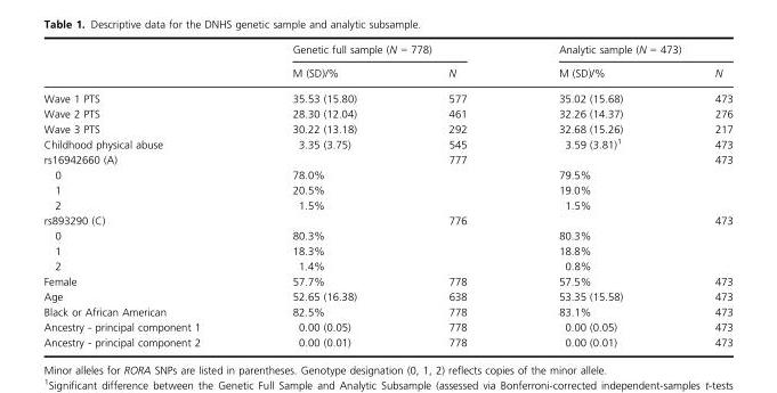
<table><thead><tr><td rowspan="2"></td><td colspan="2">Genetic full sample (N = 778)</td><td colspan="2">Analytic sample (N = 473)</td></tr><tr><td>M (SD)/%</td><td>N</td><td>M (SD)/%</td><td>N</td></tr></thead><tbody><tr><td>Wave 1 PTS</td><td>35.53 (15.80)</td><td>577</td><td>35.02 (15.68)</td><td>473</td></tr><tr><td>Wave 2 PTS</td><td>28.30 (12.04)</td><td>461</td><td>32.26 (14.37)</td><td>276</td></tr><tr><td>Wave 3 PTS</td><td>30.22 (13.18)</td><td>292</td><td>32.68 (15.26)</td><td>217</td></tr><tr><td>Childhood physical abuse</td><td>3.35 (3.75)</td><td>545</td><td>3.59 (3.81)<sup>1</sup></td><td>473</td></tr><tr><td>rs16942660 (A)</td><td></td><td>777</td><td></td><td>473</td></tr><tr><td>0</td><td>78.0%</td><td></td><td>79.5%</td><td></td></tr><tr><td>1</td><td>20.5%</td><td></td><td>19.0%</td><td></td></tr><tr><td>2</td><td>1.5%</td><td></td><td>1.5%</td><td></td></tr><tr><td>rs893290 (C)</td><td></td><td>776</td><td></td><td>473</td></tr><tr><td>0</td><td>80.3%</td><td></td><td>80.3%</td><td></td></tr><tr><td>1</td><td>18.3%</td><td></td><td>18.8%</td><td></td></tr><tr><td>2</td><td>1.4%</td><td></td><td>0.8%</td><td></td></tr><tr><td>Female</td><td>57.7%</td><td>778</td><td>57.5%</td><td>473</td></tr><tr><td>Age</td><td>52.65 (16.38)</td><td>638</td><td>53.35 (15.58)</td><td>473</td></tr><tr><td>Black or African American</td><td>82.5%</td><td>778</td><td>83.1%</td><td>473</td></tr><tr><td>Ancestry - principal component 1</td><td>0.00 (0.05)</td><td>778</td><td>0.00 (0.05)</td><td>473</td></tr><tr><td>Ancestry - principal component 2</td><td>0.00 (0.01)</td><td>778</td><td>0.00 (0.01)</td><td>473</td></tr></tbody></table>